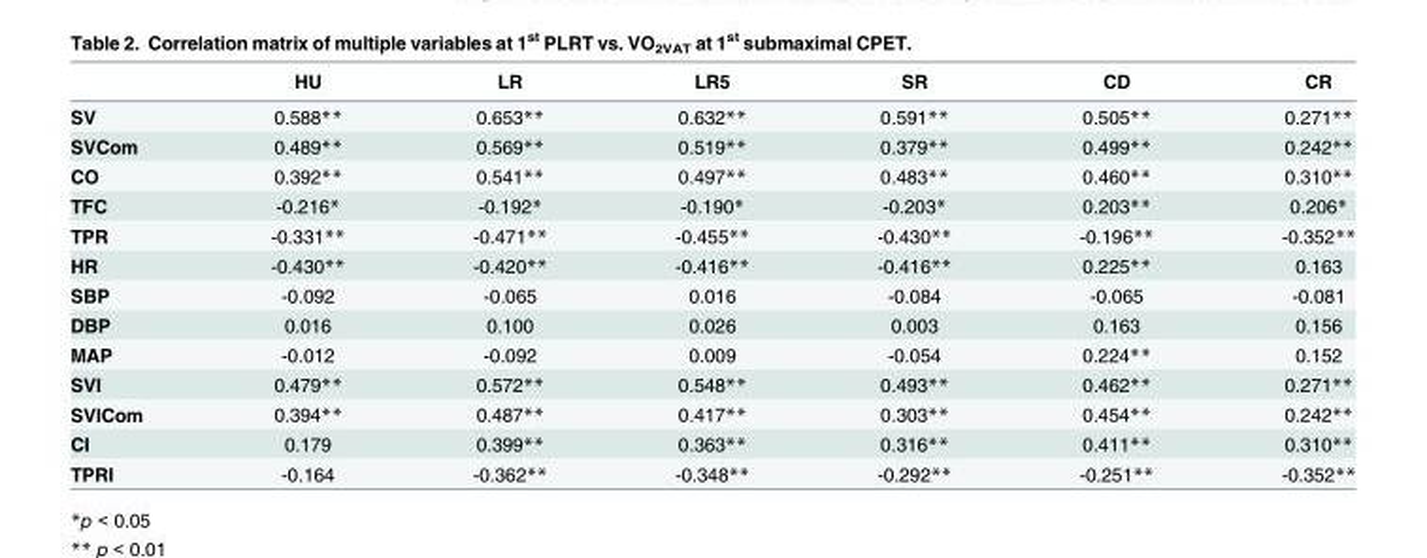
<table><thead><tr><td></td><td>HU</td><td>LR</td><td>LR5</td><td>SR</td><td>CD</td><td>CR</td></tr></thead><tbody><tr><td>SV</td><td>0.588**</td><td>0.653**</td><td>0.632**</td><td>0.591**</td><td>0.505**</td><td>0.271**</td></tr><tr><td>SVCom</td><td>0.489**</td><td>0.569**</td><td>0.519**</td><td>0.379**</td><td>0.499**</td><td>0.242**</td></tr><tr><td>CO</td><td>0.392**</td><td>0.541**</td><td>0.497**</td><td>0.483**</td><td>0.460**</td><td>0.310**</td></tr><tr><td>TFC</td><td>-0.216*</td><td>-0.192*</td><td>-0.190*</td><td>-0.203*</td><td>0.203**</td><td>0.206*</td></tr><tr><td>TPR</td><td>-0.331**</td><td>-0.471**</td><td>-0.455**</td><td>-0.430**</td><td>-0.196**</td><td>-0.352**</td></tr><tr><td>HR</td><td>-0.430**</td><td>-0.420**</td><td>-0.416**</td><td>-0.416**</td><td>0.225**</td><td>0.163</td></tr><tr><td>SBP</td><td>-0.092</td><td>-0.065</td><td>0.016</td><td>-0.084</td><td>-0.065</td><td>-0.081</td></tr><tr><td>DBP</td><td>0.016</td><td>0.100</td><td>0.026</td><td>0.003</td><td>0.163</td><td>0.156</td></tr><tr><td>MAP</td><td>-0.012</td><td>-0.092</td><td>0.009</td><td>-0.054</td><td>0.224**</td><td>0.152</td></tr><tr><td>SVI</td><td>0.479**</td><td>0.572**</td><td>0.548**</td><td>0.493**</td><td>0.462**</td><td>0.271**</td></tr><tr><td>SVICom</td><td>0.394**</td><td>0.487**</td><td>0.417**</td><td>0.303**</td><td>0.454**</td><td>0.242**</td></tr><tr><td>CI</td><td>0.179</td><td>0.399**</td><td>0.363**</td><td>0.316**</td><td>0.411**</td><td>0.310**</td></tr><tr><td>TPRI</td><td>-0.164</td><td>-0.362**</td><td>-0.348**</td><td>-0.292**</td><td>-0.251**</td><td>-0.352**</td></tr></tbody></table>